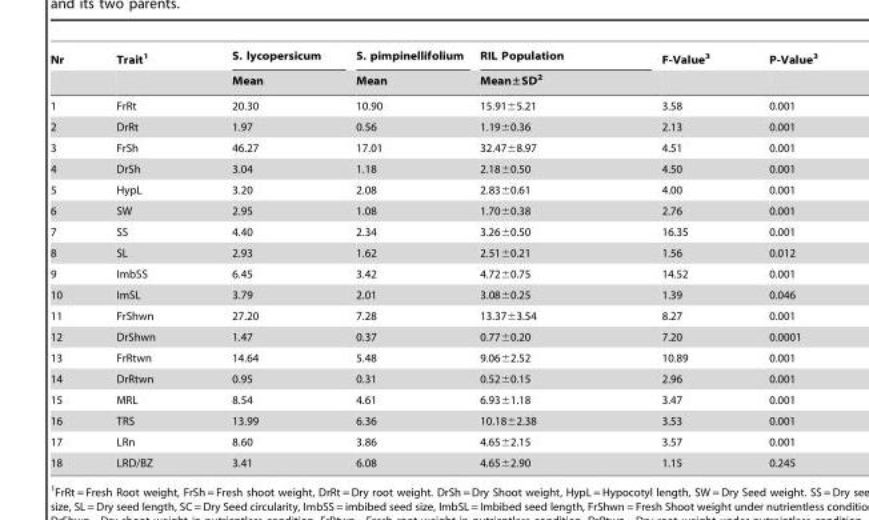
<table><thead><tr><td rowspan="2">Nr</td><td rowspan="2">Trait<sup>1</sup></td><td rowspan="2">S. lycopersicum Mean</td><td rowspan="2">S. pimpinellifolium Mean</td><td rowspan="2">RIL Population Mean±SD<sup>2</sup></td><td rowspan="2">F-Value<sup>3</sup></td><td rowspan="2">P-Value<sup>3</sup></td></tr><tr></tr></thead><tbody><tr><td>1</td><td>FrRt</td><td>20.30</td><td>10.90</td><td>15.91±5.21</td><td>3.58</td><td>0.001</td></tr><tr><td>2</td><td>DrRt</td><td>1.97</td><td>0.56</td><td>1.19±0.36</td><td>2.13</td><td>0.001</td></tr><tr><td>3</td><td>FrSh</td><td>46.27</td><td>17.01</td><td>32.47±8.97</td><td>4.51</td><td>0.001</td></tr><tr><td>4</td><td>DrSh</td><td>3.04</td><td>1.18</td><td>2.18±0.50</td><td>4.50</td><td>0.001</td></tr><tr><td>5</td><td>HypL</td><td>3.20</td><td>2.08</td><td>2.83±0.61</td><td>4.00</td><td>0.001</td></tr><tr><td>6</td><td>SW</td><td>2.95</td><td>1.08</td><td>1.70±0.38</td><td>2.76</td><td>0.001</td></tr><tr><td>7</td><td>SS</td><td>4.40</td><td>2.34</td><td>3.26±0.50</td><td>16.35</td><td>0.001</td></tr><tr><td>8</td><td>SL</td><td>2.93</td><td>1.62</td><td>2.51±0.21</td><td>1.56</td><td>0.012</td></tr><tr><td>9</td><td>ImbSS</td><td>6.45</td><td>3.42</td><td>4.72±0.75</td><td>14.52</td><td>0.001</td></tr><tr><td>10</td><td>ImSL</td><td>3.79</td><td>2.01</td><td>3.08±0.25</td><td>1.39</td><td>0.046</td></tr><tr><td>11</td><td>FrShwn</td><td>27.20</td><td>7.28</td><td>13.37±3.54</td><td>8.27</td><td>0.001</td></tr><tr><td>12</td><td>DrShwn</td><td>1.47</td><td>0.37</td><td>0.77±0.20</td><td>7.20</td><td>0.0001</td></tr><tr><td>13</td><td>FrRtwn</td><td>14.64</td><td>5.48</td><td>9.06±2.52</td><td>10.89</td><td>0.001</td></tr><tr><td>14</td><td>DrRtwn</td><td>0.95</td><td>0.31</td><td>0.52±0.15</td><td>2.96</td><td>0.001</td></tr><tr><td>15</td><td>MRL</td><td>8.54</td><td>4.61</td><td>6.93±1.18</td><td>3.47</td><td>0.001</td></tr><tr><td>16</td><td>TRS</td><td>13.99</td><td>6.36</td><td>10.18±2.38</td><td>3.53</td><td>0.001</td></tr><tr><td>17</td><td>LRn</td><td>8.60</td><td>3.86</td><td>4.65±2.15</td><td>3.57</td><td>0.001</td></tr><tr><td>18</td><td>LRD/BZ</td><td>3.41</td><td>6.08</td><td>4.65±2.90</td><td>1.15</td><td>0.245</td></tr></tbody></table>